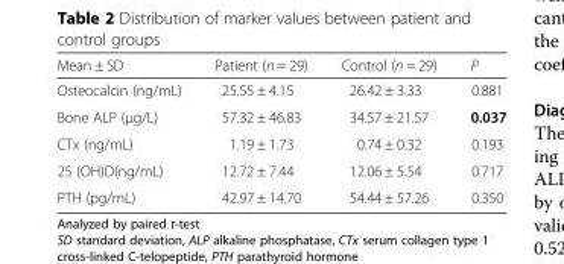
<table><thead><tr><td>Mean ± SD</td><td>Patient (n = 29)</td><td>Control (n = 29)</td><td>P</td></tr></thead><tbody><tr><td>Osteocalcin (ng/mL)</td><td>25.55 ± 4.15</td><td>26.42 ± 3.33</td><td>0.881</td></tr><tr><td>Bone ALP (μg/L)</td><td>57.32 ± 46.83</td><td>34.57 ± 21.57</td><td>0.037</td></tr><tr><td>CTx (ng/mL)</td><td>1.19 ± 1.73</td><td>0.74 ± 0.32</td><td>0.193</td></tr><tr><td>25 (OH)D(ng/mL)</td><td>12.72 ± 7.44</td><td>12.06 ± 5.54</td><td>0.717</td></tr><tr><td>PTH (pg/mL)</td><td>42.97 ± 14.70</td><td>54.44 ± 57.26</td><td>0.350</td></tr></tbody></table>